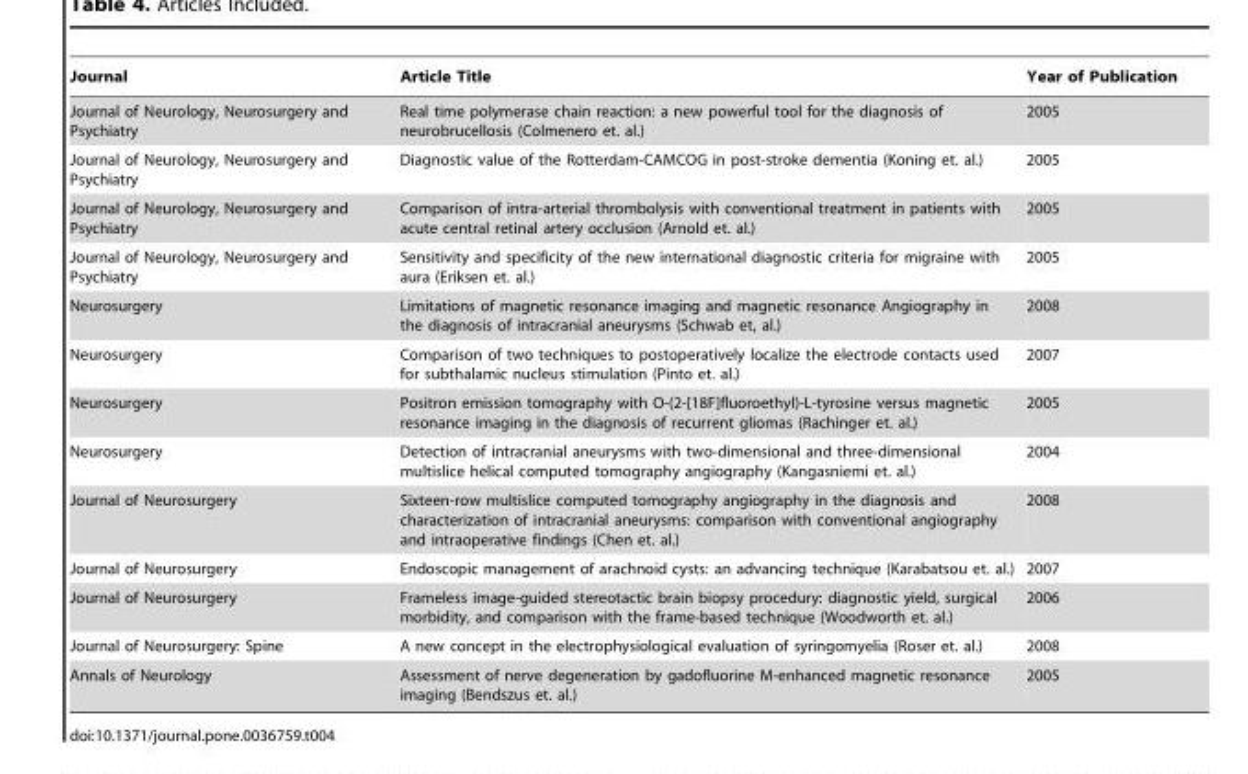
<table><thead><tr><td>Journal</td><td>Article Title</td><td>Year of Publication</td></tr></thead><tbody><tr><td>Journal of Neurology, Neurosurgery and Psychiatry</td><td>Real time polymerase chain reaction: a new powerful tool for the diagnosis of neurobrucellosis (Colmenero et. al.)</td><td>2005</td></tr><tr><td>Journal of Neurology, Neurosurgery and Psychiatry</td><td>Diagnostic value of the Rotterdam-CAMCOG in post-stroke dementia (Koning et. al.)</td><td>2005</td></tr><tr><td>Journal of Neurology, Neurosurgery and Psychiatry</td><td>Comparison of intra-arterial thrombolysis with conventional treatment in patients with acute central retinal artery occlusion (Arnold et. al.)</td><td>2005</td></tr><tr><td>Journal of Neurology, Neurosurgery and Psychiatry</td><td>Sensitivity and specificity of the new international diagnostic criteria for migraine with aura (Eriksen et. al.)</td><td>2005</td></tr><tr><td>Neurosurgery</td><td>Limitations of magnetic resonance imaging and magnetic resonance Angiography in the diagnosis of intracranial aneurysms (Schwab et, al.)</td><td>2008</td></tr><tr><td>Neurosurgery</td><td>Comparison of two techniques to postoperatively localize the electrode contacts used for subthalamic nucleus stimulation (Pinto et. al.)</td><td>2007</td></tr><tr><td>Neurosurgery</td><td>Positron emission tomography with O-(2-[18F]fluoroethyl)-L-tyrosine versus magnetic resonance imaging in the diagnosis of recurrent gliomas (Rachinger et. al.)</td><td>2005</td></tr><tr><td>Neurosurgery</td><td>Detection of intracranial aneurysms with two-dimensional and three-dimensional multislice helical computed tomography angiography (Kangasniemi et. al.)</td><td>2004</td></tr><tr><td>Journal of Neurosurgery</td><td>Sixteen-row multislice computed tomography angiography in the diagnosis and characterization of intracranial aneurysms: comparison with conventional angiography and intraoperative findings (Chen et. al.)</td><td>2008</td></tr><tr><td>Journal of Neurosurgery</td><td>Endoscopic management of arachnoid cysts: an advancing technique (Karabatsou et. al.)</td><td>2007</td></tr><tr><td>Journal of Neurosurgery</td><td>Frameless image-guided stereotactic brain biopsy procedury: diagnostic yield, surgical morbidity, and comparison with the frame-based technique (Woodworth et. al.)</td><td>2006</td></tr><tr><td>Journal of Neurosurgery: Spine</td><td>A new concept in the electrophysiological evaluation of syringomyelia (Roser et. al.)</td><td>2008</td></tr><tr><td>Annals of Neurology</td><td>Assessment of nerve degeneration by gadofluorine M-enhanced magnetic resonance imaging (Bendszus et. al.)</td><td>2005</td></tr></tbody></table>